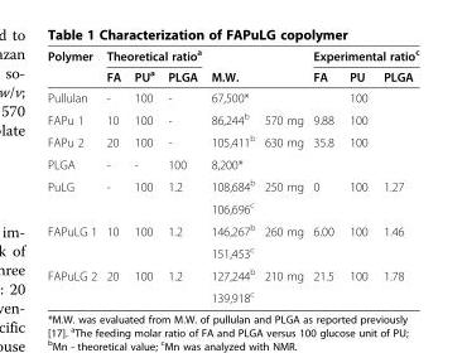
<table><thead><tr><td rowspan="2">Polymer</td><td colspan="3">Theoretical ratio<sup>a</sup></td><td rowspan="2">M.W.</td><td rowspan="2"></td><td colspan="3">Experimental ratio<sup>c</sup></td></tr><tr><td>FA</td><td>PU<sup>a</sup></td><td>PLGA</td><td>FA</td><td>PU</td><td>PLGA</td></tr></thead><tbody><tr><td>Pullulan</td><td>-</td><td>100</td><td>-</td><td>67,500*</td><td></td><td></td><td>100</td><td></td></tr><tr><td>FAPu 1</td><td>10</td><td>100</td><td>-</td><td>86,244<sup>b</sup></td><td>570 mg</td><td>9.88</td><td>100</td><td></td></tr><tr><td>FAPu 2</td><td>20</td><td>100</td><td>-</td><td>105,411<sup>b</sup></td><td>630 mg</td><td>35.8</td><td>100</td><td></td></tr><tr><td>PLGA</td><td>-</td><td>-</td><td>100</td><td>8,200*</td><td></td><td></td><td></td><td></td></tr><tr><td rowspan="2">PuLG</td><td rowspan="2">-</td><td rowspan="2">100</td><td rowspan="2">1.2</td><td>108,684<sup>b</sup></td><td rowspan="2">250 mg</td><td rowspan="2">0</td><td rowspan="2">100</td><td rowspan="2">1.27</td></tr><tr><td>106,696<sup>c</sup></td></tr><tr><td rowspan="2">FAPuLG 1</td><td rowspan="2">10</td><td rowspan="2">100</td><td rowspan="2">1.2</td><td>146,267<sup>b</sup></td><td rowspan="2">260 mg</td><td rowspan="2">6.00</td><td rowspan="2">100</td><td rowspan="2">1.46</td></tr><tr><td>151,453<sup>c</sup></td></tr><tr><td rowspan="2">FAPuLG 2</td><td rowspan="2">20</td><td rowspan="2">100</td><td rowspan="2">1.2</td><td>127,244<sup>b</sup></td><td rowspan="2">210 mg</td><td rowspan="2">21.5</td><td rowspan="2">100</td><td rowspan="2">1.78</td></tr><tr><td>139,918<sup>c</sup></td></tr></tbody></table>